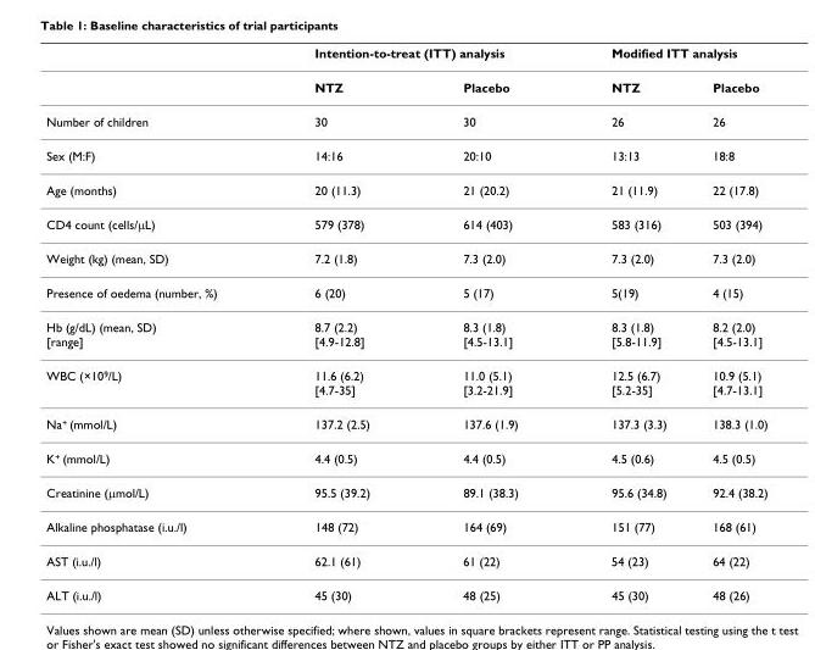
<table><thead><tr><td rowspan="2"></td><td colspan="2">Intention-to-treat (ITT) analysis</td><td colspan="2">Modified ITT analysis</td></tr><tr><td>NTZ</td><td>Placebo</td><td>NTZ</td><td>Placebo</td></tr></thead><tbody><tr><td>Number of children</td><td>30</td><td>30</td><td>26</td><td>26</td></tr><tr><td>Sex (M:F)</td><td>14:16</td><td>20:10</td><td>13:13</td><td>18:8</td></tr><tr><td>Age (months)</td><td>20 (11.3)</td><td>21 (20.2)</td><td>21 (11.9)</td><td>22 (17.8)</td></tr><tr><td>CD4 count (cells/μL)</td><td>579 (378)</td><td>614 (403)</td><td>583 (316)</td><td>503 (394)</td></tr><tr><td>Weight (kg) (mean, SD)</td><td>7.2 (1.8)</td><td>7.3 (2.0)</td><td>7.3 (2.0)</td><td>7.3 (2.0)</td></tr><tr><td>Presence of oedema (number, %)</td><td>6 (20)</td><td>5 (17)</td><td>5(19)</td><td>4 (15)</td></tr><tr><td>Hb (g/dL) (mean, SD) [range]</td><td>8.7 (2.2) [4.9-12.8]</td><td>8.3 (1.8) [4.5-13.1]</td><td>8.3 (1.8) [5.8-11.9]</td><td>8.2 (2.0) [4.5-13.1]</td></tr><tr><td>WBC (×10<sup>9</sup>/L)</td><td>11.6 (6.2) [4.7-35]</td><td>11.0 (5.1) [3.2-21.9]</td><td>12.5 (6.7) [5.2-35]</td><td>10.9 (5.1) [4.7-13.1]</td></tr><tr><td>Na<sup>+</sup> (mmol/L)</td><td>137.2 (2.5)</td><td>137.6 (1.9)</td><td>137.3 (3.3)</td><td>138.3 (1.0)</td></tr><tr><td>K<sup>+</sup> (mmol/L)</td><td>4.4 (0.5)</td><td>4.4 (0.5)</td><td>4.5 (0.6)</td><td>4.5 (0.5)</td></tr><tr><td>Creatinine (μmol/L)</td><td>95.5 (39.2)</td><td>89.1 (38.3)</td><td>95.6 (34.8)</td><td>92.4 (38.2)</td></tr><tr><td>Alkaline phosphatase (i.u./l)</td><td>148 (72)</td><td>164 (69)</td><td>151 (77)</td><td>168 (61)</td></tr><tr><td>AST (i.u./l)</td><td>62.1 (61)</td><td>61 (22)</td><td>54 (23)</td><td>64 (22)</td></tr><tr><td>ALT (i.u./l)</td><td>45 (30)</td><td>48 (25)</td><td>45 (30)</td><td>48 (26)</td></tr></tbody></table>